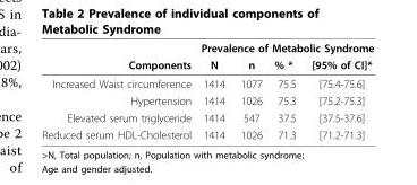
<table><thead><tr><td rowspan="2">Components</td><td colspan="4">Prevalence of Metabolic Syndrome</td></tr><tr><td>N</td><td>n</td><td>% *</td><td>[95% of CI]*</td></tr></thead><tbody><tr><td>Increased Waist circumference</td><td>1414</td><td>1077</td><td>75.5</td><td>[75.4-75.6]</td></tr><tr><td>Hypertension</td><td>1414</td><td>1026</td><td>75.3</td><td>[75.2-75.3]</td></tr><tr><td>Elevated serum triglyceride</td><td>1414</td><td>547</td><td>37.5</td><td>[37.5-37.6]</td></tr><tr><td>Reduced serum HDL-Cholesterol</td><td>1414</td><td>1026</td><td>71.3</td><td>[71.2-71.3]</td></tr></tbody></table>